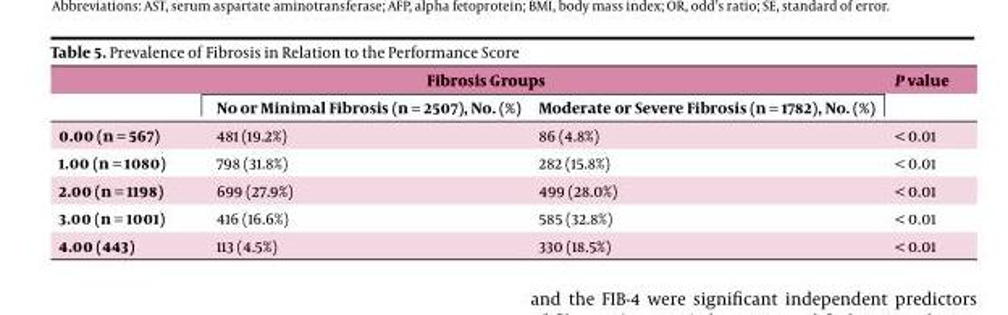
<table><thead><tr><td rowspan="2"></td><td colspan="2">Fibrosis Groups</td><td rowspan="2">P value</td></tr><tr><td>No or Minimal Fibrosis (n = 2507), No. (%)</td><td>Moderate or Severe Fibrosis (n = 1782), No. (%)</td></tr></thead><tbody><tr><td>0.00 (n = 567)</td><td>481 (19.2%)</td><td>86 (4.8%)</td><td>&lt; 0.01</td></tr><tr><td>1.00 (n = 1080)</td><td>798 (31.8%)</td><td>282 (15.8%)</td><td>&lt; 0.01</td></tr><tr><td>2.00 (n = 1198)</td><td>699 (27.9%)</td><td>499 (28.0%)</td><td>&lt; 0.01</td></tr><tr><td>3.00 (n = 1001)</td><td>416 (16.6%)</td><td>585 (32.8%)</td><td>&lt; 0.01</td></tr><tr><td>4.00 (443)</td><td>113 (4.5%)</td><td>330 (18.5%)</td><td>&lt; 0.01</td></tr></tbody></table>